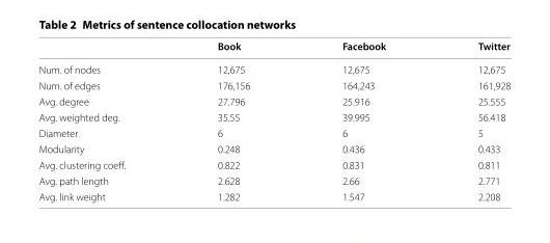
<table><thead><tr><td></td><td>Book</td><td>Facebook</td><td>Twitter</td></tr></thead><tbody><tr><td>Num. of nodes</td><td>12,675</td><td>12,675</td><td>12,675</td></tr><tr><td>Num. of edges</td><td>176,156</td><td>164,243</td><td>161,928</td></tr><tr><td>Avg. degree</td><td>27.796</td><td>25.916</td><td>25.555</td></tr><tr><td>Avg. weighted deg.</td><td>35.55</td><td>39.995</td><td>56.418</td></tr><tr><td>Diameter</td><td>6</td><td>6</td><td>5</td></tr><tr><td>Modularity</td><td>0.248</td><td>0.436</td><td>0.433</td></tr><tr><td>Avg. clustering coeff.</td><td>0.822</td><td>0.831</td><td>0.811</td></tr><tr><td>Avg. path length</td><td>2.628</td><td>2.66</td><td>2.771</td></tr><tr><td>Avg. link weight</td><td>1.282</td><td>1.547</td><td>2.208</td></tr></tbody></table>